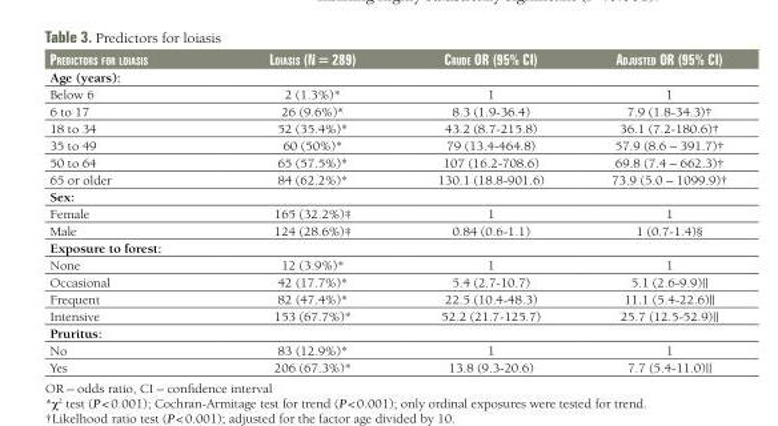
<table><thead><tr><td>PredicTors for loiasis</td><td>loiasis (N = 289)</td><td>crude or (95% ci)</td><td>adjusTed or (95% ci)</td></tr></thead><tbody><tr><td colspan="4">Age (years):</td></tr><tr><td>Below 6</td><td>2 (1.3%)*</td><td>1</td><td>1</td></tr><tr><td>6 to 17</td><td>26 (9.6%)*</td><td>8.3 (1.9-36.4)</td><td>7.9 (1.8-34.3)†</td></tr><tr><td>18 to 34</td><td>52 (35.4%)*</td><td>43.2 (8.7-215.8)</td><td>36.1 (7.2-180.6)†</td></tr><tr><td>35 to 49</td><td>60 (50%)*</td><td>79 (13.4-464.8)</td><td>57.9 (8.6 – 391.7)†</td></tr><tr><td>50 to 64</td><td>65 (57.5%)*</td><td>107 (16.2-708.6)</td><td>69.8 (7.4 – 662.3)†</td></tr><tr><td>65 or older</td><td>84 (62.2%)*</td><td>130.1 (18.8-901.6)</td><td>73.9 (5.0 – 1099.9)†</td></tr><tr><td colspan="4">Sex:</td></tr><tr><td>Female</td><td>165 (32.2%)‡</td><td>1</td><td>1</td></tr><tr><td>Male</td><td>124 (28.6%)‡</td><td>0.84 (0.6-1.1)</td><td>1 (0.7-1.4)§</td></tr><tr><td colspan="4">Exposure to forest:</td></tr><tr><td>None</td><td>12 (3.9%)*</td><td>1</td><td>1</td></tr><tr><td>Occasional</td><td>42 (17.7%)*</td><td>5.4 (2.7-10.7)</td><td>5.1 (2.6-9.9)||</td></tr><tr><td>Frequent</td><td>82 (47.4%)*</td><td>22.5 (10.4-48.3)</td><td>11.1 (5.4-22.6)||</td></tr><tr><td>Intensive</td><td>153 (67.7%)*</td><td>52.2 (21.7-125.7)</td><td>25.7 (12.5-52.9)||</td></tr><tr><td colspan="4">Pruritus:</td></tr><tr><td>No</td><td>83 (12.9%)*</td><td>1</td><td>1</td></tr><tr><td>Yes</td><td>206 (67.3%)*</td><td>13.8 (9.3-20.6)</td><td>7.7 (5.4-11.0)||</td></tr></tbody></table>